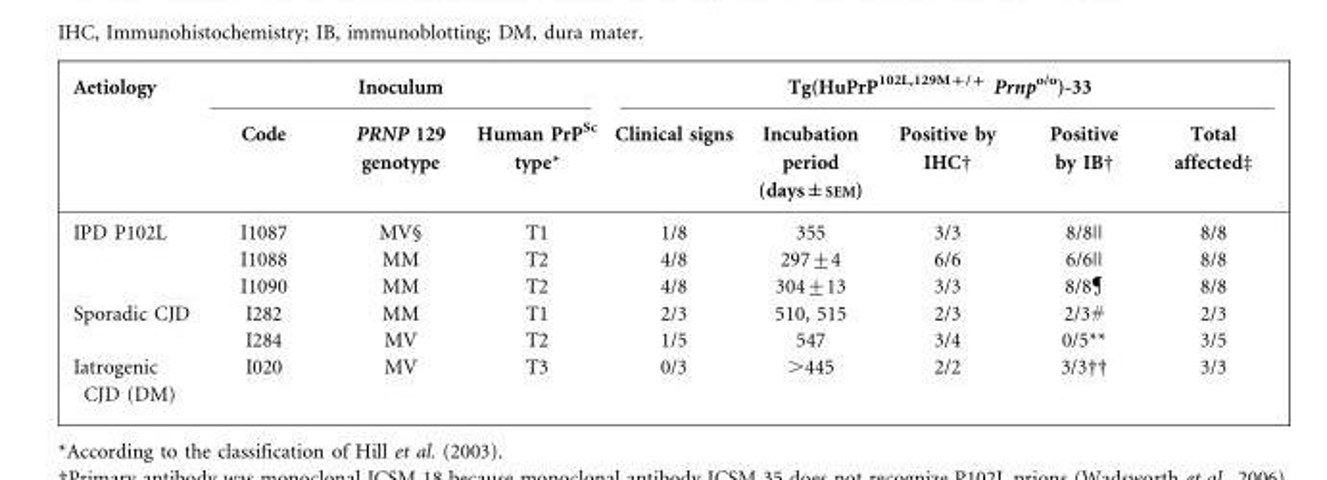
<table><thead><tr><td rowspan="2">Aetiology</td><td colspan="3">Inoculum</td><td colspan="5">Tg(HuPrP<sup>102L,129M+/+</sup> Prnp<sup>o/o</sup>)-33</td></tr><tr><td>Code</td><td>PRNP 129 genotype</td><td>Human PrP<sup>Sc</sup> type*</td><td>Clinical signs</td><td>Incubation period (days±SEM)</td><td>Positive by IHC†</td><td>Positive by IB†</td><td>Total affected‡</td></tr></thead><tbody><tr><td rowspan="3">IPD P102L</td><td>I1087</td><td>MV§</td><td>T1</td><td>1/8</td><td>355</td><td>3/3</td><td>8/8||</td><td>8/8</td></tr><tr><td>I1088</td><td>MM</td><td>T2</td><td>4/8</td><td>297±4</td><td>6/6</td><td>6/6||</td><td>8/8</td></tr><tr><td>I1090</td><td>MM</td><td>T2</td><td>4/8</td><td>304±13</td><td>3/3</td><td>8/8</td><td>8/8</td></tr><tr><td rowspan="2">Sporadic CJD</td><td>I282</td><td>MM</td><td>T1</td><td>2/3</td><td>510, 515</td><td>2/3</td><td>2/3#</td><td>2/3</td></tr><tr><td>I284</td><td>MV</td><td>T2</td><td>1/5</td><td>547</td><td>3/4</td><td>0/5**</td><td>3/5</td></tr><tr><td>Iatrogenic CJD (DM)</td><td>I020</td><td>MV</td><td>T3</td><td>0/3</td><td>&gt;445</td><td>2/2</td><td>3/3††</td><td>3/3</td></tr></tbody></table>